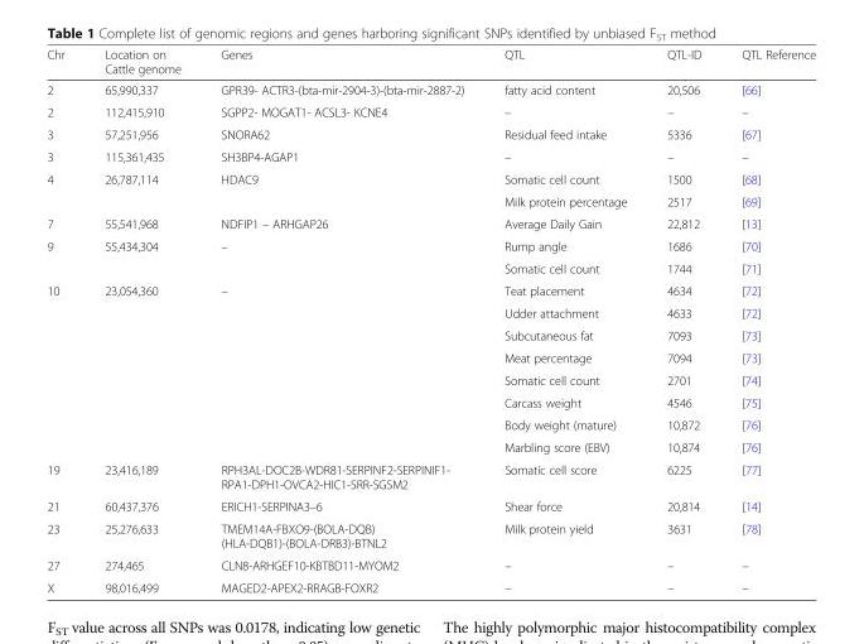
<table><thead><tr><td>Chr</td><td>Location on Cattle genome</td><td>Genes</td><td>QTL</td><td>QTL-ID</td><td>QTL Reference</td></tr></thead><tbody><tr><td>2</td><td>65,990,337</td><td>GPR39- ACTR3-(bta-mir-2904-3)-(bta-mir-2887-2)</td><td>fatty acid content</td><td>20,506</td><td>[66]</td></tr><tr><td>2</td><td>112,415,910</td><td>SGPP2- MOGAT1- ACSL3- KCNE4</td><td>–</td><td>–</td><td>–</td></tr><tr><td>3</td><td>57,251,956</td><td>SNORA62</td><td>Residual feed intake</td><td>5336</td><td>[67]</td></tr><tr><td>3</td><td>115,361,435</td><td>SH3BP4-AGAP1</td><td>–</td><td>–</td><td>–</td></tr><tr><td rowspan="2">4</td><td rowspan="2">26,787,114</td><td rowspan="2">HDAC9</td><td>Somatic cell count</td><td>1500</td><td>[68]</td></tr><tr><td>Milk protein percentage</td><td>2517</td><td>[69]</td></tr><tr><td>7</td><td>55,541,968</td><td>NDFIP1 – ARHGAP26</td><td>Average Daily Gain</td><td>22,812</td><td>[13]</td></tr><tr><td rowspan="2">9</td><td rowspan="2">55,434,304</td><td rowspan="2">–</td><td>Rump angle</td><td>1686</td><td>[70]</td></tr><tr><td>Somatic cell count</td><td>1744</td><td>[71]</td></tr><tr><td rowspan="8">10</td><td rowspan="8">23,054,360</td><td rowspan="8">–</td><td>Teat placement</td><td>4634</td><td>[72]</td></tr><tr><td>Udder attachment</td><td>4633</td><td>[72]</td></tr><tr><td>Subcutaneous fat</td><td>7093</td><td>[73]</td></tr><tr><td>Meat percentage</td><td>7094</td><td>[73]</td></tr><tr><td>Somatic cell count</td><td>2701</td><td>[74]</td></tr><tr><td>Carcass weight</td><td>4546</td><td>[75]</td></tr><tr><td>Body weight (mature)</td><td>10,872</td><td>[76]</td></tr><tr><td>Marbling score (EBV)</td><td>10,874</td><td>[76]</td></tr><tr><td>19</td><td>23,416,189</td><td>RPH3AL-DOC2B-WDR81-SERPINF2-SERPINIF1- RPA1-DPH1-OVCA2-HIC1-SRR-SGSM2</td><td>Somatic cell score</td><td>6225</td><td>[77]</td></tr><tr><td>21</td><td>60,437,376</td><td>ERICH1-SERPINA3–6</td><td>Shear force</td><td>20,814</td><td>[14]</td></tr><tr><td>23</td><td>25,276,633</td><td>TMEM14A-FBXO9-(BOLA-DQB) (HLA-DQB1)-(BOLA-DRB3)-BTNL2</td><td>Milk protein yield</td><td>3631</td><td>[78]</td></tr><tr><td>27</td><td>274,465</td><td>CLN8-ARHGEF10-KBTBD11-MYOM2</td><td>–</td><td>–</td><td>–</td></tr><tr><td>X</td><td>98,016,499</td><td>MAGED2-APEX2-RRAGB-FOXR2</td><td>–</td><td>–</td><td>–</td></tr></tbody></table>